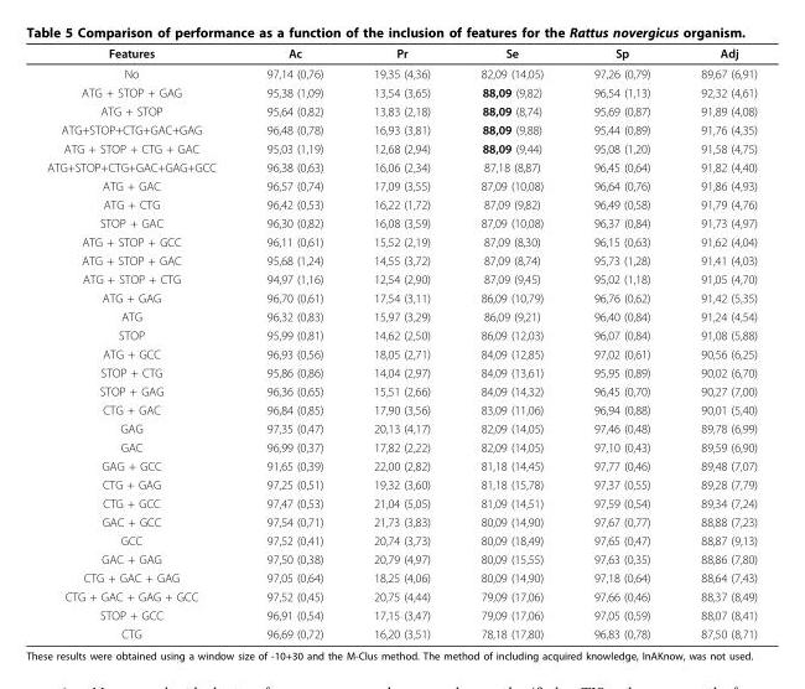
<table><thead><tr><td>Features</td><td>Ac</td><td>Pr</td><td>Se</td><td>Sp</td><td>Adj</td></tr></thead><tbody><tr><td>No</td><td>97,14 (0,76)</td><td>19,35 (4,36)</td><td>82,09 (14,05)</td><td>97,26 (0,79)</td><td>89,67 (6,91)</td></tr><tr><td>ATG + STOP + GAG</td><td>95,38 (1,09)</td><td>13,54 (3,65)</td><td>88,09 (9,82)</td><td>96,54 (1,13)</td><td>92,32 (4,61)</td></tr><tr><td>ATG + STOP</td><td>95,64 (0,82)</td><td>13,83 (2,18)</td><td>88,09 (8,74)</td><td>95,69 (0,87)</td><td>91,89 (4,08)</td></tr><tr><td>ATG+STOP+CTG+GAC+GAG</td><td>96,48 (0,78)</td><td>16,93 (3,81)</td><td>88,09 (9,88)</td><td>95,44 (0,89)</td><td>91,76 (4,35)</td></tr><tr><td>ATG + STOP + CTG + GAC</td><td>95,03 (1,19)</td><td>12,68 (2,94)</td><td>88,09 (9,44)</td><td>95,08 (1,20)</td><td>91,58 (4,75)</td></tr><tr><td>ATG+STOP+CTG+GAC+GAG+GCC</td><td>96,38 (0,63)</td><td>16,06 (2,34)</td><td>87,18 (8,87)</td><td>96,45 (0,64)</td><td>91,82 (4,40)</td></tr><tr><td>ATG + GAC</td><td>96,57 (0,74)</td><td>17,09 (3,55)</td><td>87,09 (10,08)</td><td>96,64 (0,76)</td><td>91,86 (4,93)</td></tr><tr><td>ATG + CTG</td><td>96,42 (0,53)</td><td>16,22 (1,72)</td><td>87,09 (9,82)</td><td>96,49 (0,58)</td><td>91,79 (4,76)</td></tr><tr><td>STOP + GAC</td><td>96,30 (0,82)</td><td>16,08 (3,59)</td><td>87,09 (10,08)</td><td>96,37 (0,84)</td><td>91,73 (4,97)</td></tr><tr><td>ATG + STOP + GCC</td><td>96,11 (0,61)</td><td>15,52 (2,19)</td><td>87,09 (8,30)</td><td>96,15 (0,63)</td><td>91,62 (4,04)</td></tr><tr><td>ATG + STOP + GAC</td><td>95,68 (1,24)</td><td>14,55 (3,72)</td><td>87,09 (8,74)</td><td>95,73 (1,28)</td><td>91,41 (4,03)</td></tr><tr><td>ATG + STOP + CTG</td><td>94,97 (1,16)</td><td>12,54 (2,90)</td><td>87,09 (9,45)</td><td>95,02 (1,18)</td><td>91,05 (4,70)</td></tr><tr><td>ATG + GAG</td><td>96,70 (0,61)</td><td>17,54 (3,11)</td><td>86,09 (10,79)</td><td>96,76 (0,62)</td><td>91,42 (5,35)</td></tr><tr><td>ATG</td><td>96,32 (0,83)</td><td>15,97 (3,29)</td><td>86,09 (9,21)</td><td>96,40 (0,84)</td><td>91,24 (4,54)</td></tr><tr><td>STOP</td><td>95,99 (0,81)</td><td>14,62 (2,50)</td><td>86,09 (12,03)</td><td>96,07 (0,84)</td><td>91,08 (5,88)</td></tr><tr><td>ATG + GCC</td><td>96,93 (0,56)</td><td>18,05 (2,71)</td><td>84,09 (12,85)</td><td>97,02 (0,61)</td><td>90,56 (6,25)</td></tr><tr><td>STOP + CTG</td><td>95,86 (0,86)</td><td>14,04 (2,97)</td><td>84,09 (13,61)</td><td>95,95 (0,89)</td><td>90,02 (6,70)</td></tr><tr><td>STOP + GAG</td><td>96,36 (0,65)</td><td>15,51 (2,66)</td><td>84,09 (14,32)</td><td>96,45 (0,70)</td><td>90,27 (7,00)</td></tr><tr><td>CTG + GAC</td><td>96,84 (0,85)</td><td>17,90 (3,56)</td><td>83,09 (11,06)</td><td>96,94 (0,88)</td><td>90,01 (5,40)</td></tr><tr><td>GAG</td><td>97,35 (0,47)</td><td>20,13 (4,17)</td><td>82,09 (14,05)</td><td>97,46 (0,48)</td><td>89,78 (6,99)</td></tr><tr><td>GAC</td><td>96,99 (0,37)</td><td>17,82 (2,22)</td><td>82,09 (14,05)</td><td>97,10 (0,43)</td><td>89,59 (6,90)</td></tr><tr><td>GAG + GCC</td><td>91,65 (0,39)</td><td>22,00 (2,82)</td><td>81,18 (14,45)</td><td>97,77 (0,46)</td><td>89,48 (7,07)</td></tr><tr><td>CTG + GAG</td><td>97,25 (0,51)</td><td>19,32 (3,60)</td><td>81,18 (15,78)</td><td>97,37 (0,55)</td><td>89,28 (7,79)</td></tr><tr><td>CTG + GCC</td><td>97,47 (0,53)</td><td>21,04 (5,05)</td><td>81,09 (14,51)</td><td>97,59 (0,54)</td><td>89,34 (7,24)</td></tr><tr><td>GAC + GCC</td><td>97,54 (0,71)</td><td>21,73 (3,83)</td><td>80,09 (14,90)</td><td>97,67 (0,77)</td><td>88,88 (7,23)</td></tr><tr><td>GCC</td><td>97,52 (0,41)</td><td>20,74 (3,73)</td><td>80,09 (18,49)</td><td>97,65 (0,47)</td><td>88,87 (9,13)</td></tr><tr><td>GAC + GAG</td><td>97,50 (0,38)</td><td>20,79 (4,97)</td><td>80,09 (15,55)</td><td>97,63 (0,35)</td><td>88,86 (7,80)</td></tr><tr><td>CTG + GAC + GAG</td><td>97,05 (0,64)</td><td>18,25 (4,06)</td><td>80,09 (14,90)</td><td>97,18 (0,64)</td><td>88,64 (7,43)</td></tr><tr><td>CTG + GAC + GAG + GCC</td><td>97,52 (0,45)</td><td>20,75 (4,44)</td><td>79,09 (17,06)</td><td>97,66 (0,46)</td><td>88,37 (8,49)</td></tr><tr><td>STOP + GCC</td><td>96,91 (0,54)</td><td>17,15 (3,47)</td><td>79,09 (17,06)</td><td>97,05 (0,59)</td><td>88,07 (8,41)</td></tr><tr><td>CTG</td><td>96,69 (0,72)</td><td>16,20 (3,51)</td><td>78,18 (17,80)</td><td>96,83 (0,78)</td><td>87,50 (8,71)</td></tr></tbody></table>